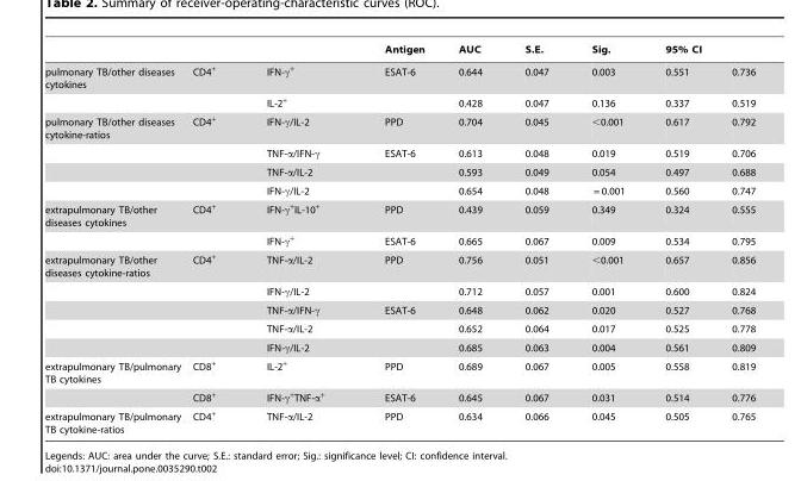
<table><thead><tr><td rowspan="2">pulmonary TB/other diseases cytokines</td><td rowspan="2">CD4<sup>+</sup></td><td rowspan="2">IFN-γ<sup>+</sup></td><td rowspan="2">Antigen ESAT-6</td><td rowspan="2">AUC 0.644</td><td rowspan="2">S.E. 0.047</td><td rowspan="2">Sig. 0.003</td><td colspan="2">95% CI</td></tr><tr><td>0.551</td><td>0.736</td></tr></thead><tbody><tr><td></td><td></td><td>IL-2<sup>+</sup></td><td></td><td>0.428</td><td>0.047</td><td>0.136</td><td>0.337</td><td>0.519</td></tr><tr><td rowspan="4">pulmonary TB/other diseases cytokine-ratios</td><td>CD4<sup>+</sup></td><td>IFN-γ/IL-2</td><td>PPD</td><td>0.704</td><td>0.045</td><td>&lt;0.001</td><td>0.617</td><td>0.792</td></tr><tr><td></td><td>TNF-α/IFN-γ</td><td>ESAT-6</td><td>0.613</td><td>0.048</td><td>0.019</td><td>0.519</td><td>0.706</td></tr><tr><td></td><td>TNF-α/IL-2</td><td></td><td>0.593</td><td>0.049</td><td>0.054</td><td>0.497</td><td>0.688</td></tr><tr><td></td><td>IFN-γ/IL-2</td><td></td><td>0.654</td><td>0.048</td><td>= 0.001</td><td>0.560</td><td>0.747</td></tr><tr><td rowspan="2">extrapulmonary TB/other diseases cytokines</td><td>CD4<sup>+</sup></td><td>IFN-γ<sup>+</sup>IL-10<sup>+</sup></td><td>PPD</td><td>0.439</td><td>0.059</td><td>0.349</td><td>0.324</td><td>0.555</td></tr><tr><td></td><td>IFN-γ<sup>+</sup></td><td>ESAT-6</td><td>0.665</td><td>0.067</td><td>0.009</td><td>0.534</td><td>0.795</td></tr><tr><td rowspan="5">extrapulmonary TB/other diseases cytokine-ratios</td><td>CD4<sup>+</sup></td><td>TNF-α/IL-2</td><td>PPD</td><td>0.756</td><td>0.051</td><td>&lt;0.001</td><td>0.657</td><td>0.856</td></tr><tr><td></td><td>IFN-γ/IL-2</td><td></td><td>0.712</td><td>0.057</td><td>0.001</td><td>0.600</td><td>0.824</td></tr><tr><td></td><td>TNF-α/IFN-γ</td><td>ESAT-6</td><td>0.648</td><td>0.062</td><td>0.020</td><td>0.527</td><td>0.768</td></tr><tr><td></td><td>TNF-α/IL-2</td><td></td><td>0.652</td><td>0.064</td><td>0.017</td><td>0.525</td><td>0.778</td></tr><tr><td></td><td>IFN-γ/IL-2</td><td></td><td>0.685</td><td>0.063</td><td>0.004</td><td>0.561</td><td>0.809</td></tr><tr><td rowspan="2">extrapulmonary TB/pulmonary TB cytokines</td><td>CD8<sup>+</sup></td><td>IL-2<sup>+</sup></td><td>PPD</td><td>0.689</td><td>0.067</td><td>0.005</td><td>0.558</td><td>0.819</td></tr><tr><td>CD8<sup>+</sup></td><td>IFN-γ<sup>+</sup>TNF-α<sup>+</sup></td><td>ESAT-6</td><td>0.645</td><td>0.067</td><td>0.031</td><td>0.514</td><td>0.776</td></tr><tr><td>extrapulmonary TB/pulmonary TB cytokine-ratios</td><td>CD4<sup>+</sup></td><td>TNF-α/IL-2</td><td>PPD</td><td>0.634</td><td>0.066</td><td>0.045</td><td>0.505</td><td>0.765</td></tr></tbody></table>